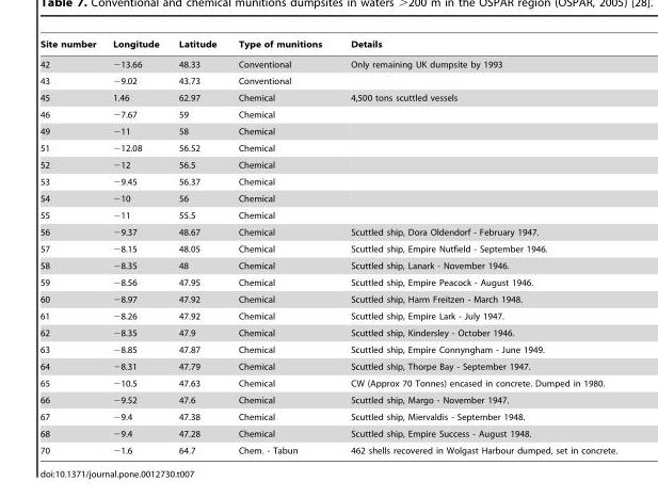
<table><thead><tr><td>Site number</td><td>Longitude</td><td>Latitude</td><td>Type of munitions</td><td>Details</td></tr></thead><tbody><tr><td>42</td><td>−13.66</td><td>48.33</td><td>Conventional</td><td>Only remaining UK dumpsite by 1993</td></tr><tr><td>43</td><td>−9.02</td><td>43.73</td><td>Conventional</td><td></td></tr><tr><td>45</td><td>1.46</td><td>62.97</td><td>Chemical</td><td>4,500 tons scuttled vessels</td></tr><tr><td>46</td><td>−7.67</td><td>59</td><td>Chemical</td><td></td></tr><tr><td>49</td><td>−11</td><td>58</td><td>Chemical</td><td></td></tr><tr><td>51</td><td>−12.08</td><td>56.52</td><td>Chemical</td><td></td></tr><tr><td>52</td><td>−12</td><td>56.5</td><td>Chemical</td><td></td></tr><tr><td>53</td><td>−9.45</td><td>56.37</td><td>Chemical</td><td></td></tr><tr><td>54</td><td>−10</td><td>56</td><td>Chemical</td><td></td></tr><tr><td>55</td><td>−11</td><td>55.5</td><td>Chemical</td><td></td></tr><tr><td>56</td><td>−9.37</td><td>48.67</td><td>Chemical</td><td>Scuttled ship, Dora Oldendorf - February 1947.</td></tr><tr><td>57</td><td>−8.15</td><td>48.05</td><td>Chemical</td><td>Scuttled ship, Empire Nutfield - September 1946.</td></tr><tr><td>58</td><td>−8.35</td><td>48</td><td>Chemical</td><td>Scuttled ship, Lanark - November 1946.</td></tr><tr><td>59</td><td>−8.56</td><td>47.95</td><td>Chemical</td><td>Scuttled ship, Empire Peacock - August 1946.</td></tr><tr><td>60</td><td>−8.97</td><td>47.92</td><td>Chemical</td><td>Scuttled ship, Harm Freitzen - March 1948.</td></tr><tr><td>61</td><td>−8.26</td><td>47.92</td><td>Chemical</td><td>Scuttled ship, Empire Lark - July 1947.</td></tr><tr><td>62</td><td>−8.35</td><td>47.9</td><td>Chemical</td><td>Scuttled ship, Kindersley - October 1946.</td></tr><tr><td>63</td><td>−8.85</td><td>47.87</td><td>Chemical</td><td>Scuttled ship, Empire Connyngham - June 1949.</td></tr><tr><td>64</td><td>−8.31</td><td>47.79</td><td>Chemical</td><td>Scuttled ship, Thorpe Bay - September 1947.</td></tr><tr><td>65</td><td>−10.5</td><td>47.63</td><td>Chemical</td><td>CW (Approx 70 Tonnes) encased in concrete. Dumped in 1980.</td></tr><tr><td>66</td><td>−9.52</td><td>47.6</td><td>Chemical</td><td>Scuttled ship, Margo - November 1947.</td></tr><tr><td>67</td><td>−9.4</td><td>47.38</td><td>Chemical</td><td>Scuttled ship, Miervaldis - September 1948.</td></tr><tr><td>68</td><td>−9.4</td><td>47.28</td><td>Chemical</td><td>Scuttled ship, Empire Success - August 1948.</td></tr><tr><td>70</td><td>−1.6</td><td>64.7</td><td>Chem. - Tabun</td><td>462 shells recovered in Wolgast Harbour dumped, set in concrete.</td></tr></tbody></table>